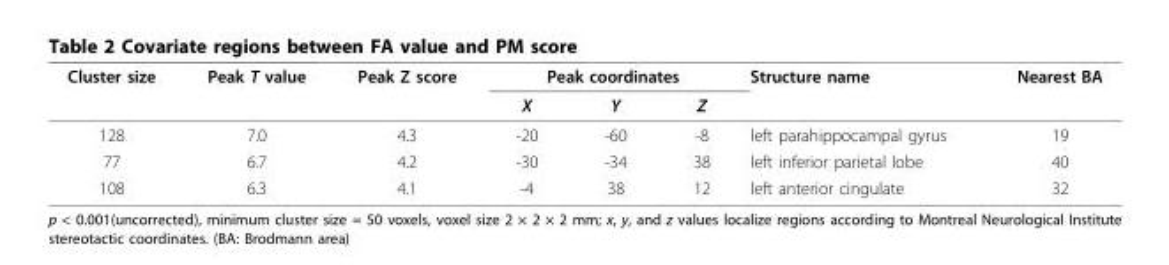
<table><thead><tr><td rowspan="2">Cluster size</td><td rowspan="2">Peak T value</td><td rowspan="2">Peak Z score</td><td colspan="3">Peak coordinates</td><td rowspan="2">Structure name</td><td rowspan="2">Nearest BA</td></tr><tr><td>X</td><td>Y</td><td>Z</td></tr></thead><tbody><tr><td>128</td><td>7.0</td><td>4.3</td><td>-20</td><td>-60</td><td>-8</td><td>left parahippocampal gyrus</td><td>19</td></tr><tr><td>77</td><td>6.7</td><td>4.2</td><td>-30</td><td>-34</td><td>38</td><td>left inferior parietal lobe</td><td>40</td></tr><tr><td>108</td><td>6.3</td><td>4.1</td><td>-4</td><td>38</td><td>12</td><td>left anterior cingulate</td><td>32</td></tr></tbody></table>